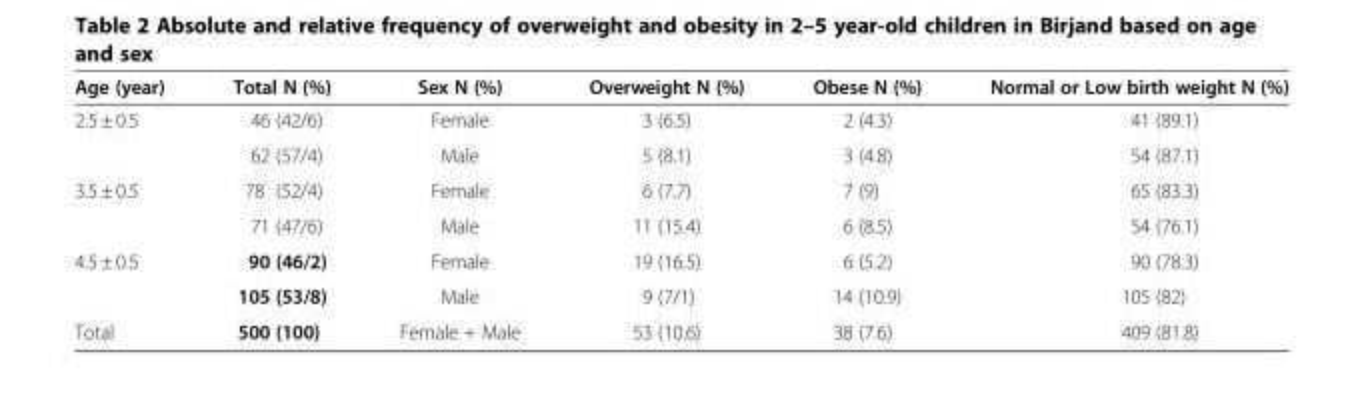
<table><thead><tr><td>Age (year)</td><td>Total N (%)</td><td>Sex N (%)</td><td>Overweight N (%)</td><td>Obese N (%)</td><td>Normal or Low birth weight N (%)</td></tr></thead><tbody><tr><td rowspan="2">2.5 ± 0.5</td><td>46 (42/6)</td><td>Female</td><td>3 (6.5)</td><td>2 (4.3)</td><td>41 (89.1)</td></tr><tr><td>62 (57/4)</td><td>Male</td><td>5 (8.1)</td><td>3 (4.8)</td><td>54 (87.1)</td></tr><tr><td rowspan="2">3.5 ± 0.5</td><td>78 (52/4)</td><td>Female</td><td>6 (7.7)</td><td>7 (9)</td><td>65 (83.3)</td></tr><tr><td>71 (47/6)</td><td>Male</td><td>11 (15.4)</td><td>6 (8.5)</td><td>54 (76.1)</td></tr><tr><td rowspan="2">4.5 ± 0.5</td><td>90 (46/2)</td><td>Female</td><td>19 (16.5)</td><td>6 (5.2)</td><td>90 (78.3)</td></tr><tr><td>105 (53/8)</td><td>Male</td><td>9 (7/1)</td><td>14 (10.9)</td><td>105 (82)</td></tr><tr><td>Total</td><td>500 (100)</td><td>Female + Male</td><td>53 (10.6)</td><td>38 (7.6)</td><td>409 (81.8)</td></tr></tbody></table>